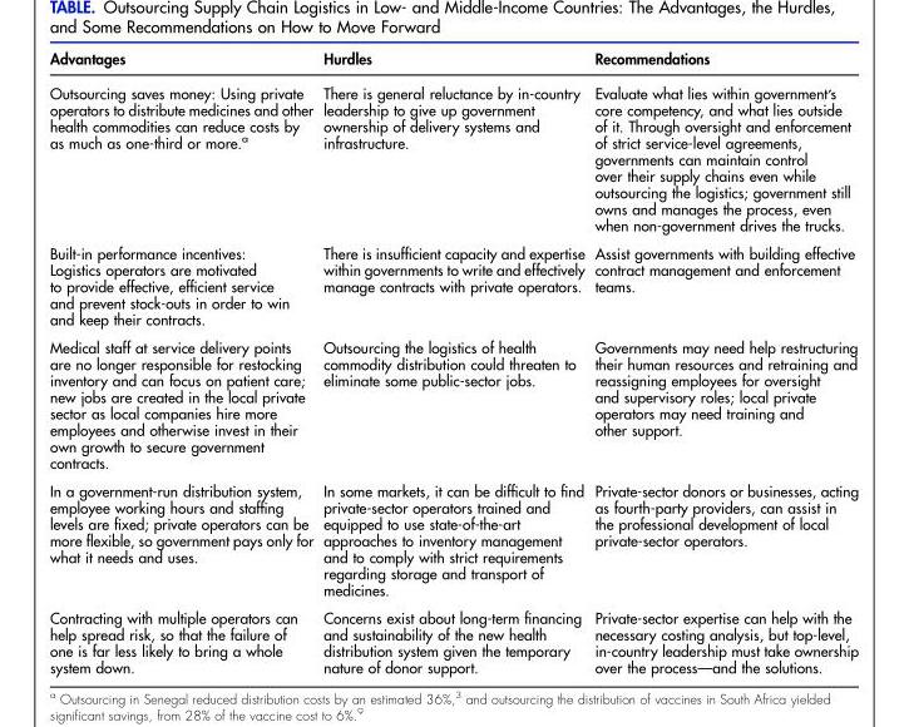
<table><thead><tr><td>Advantages</td><td>Hurdles</td><td>Recommendations</td></tr></thead><tbody><tr><td>Outsourcing saves money: Using private operators to distribute medicines and other health commodities can reduce costs by as much as one-third or more.<sup>a</sup></td><td>There is general reluctance by in-country leadership to give up government ownership of delivery systems and infrastructure.</td><td>Evaluate what lies within government’s core competency, and what lies outside of it. Through oversight and enforcement of strict service-level agreements, governments can maintain control over their supply chains even while outsourcing the logistics; government still owns and manages the process, even when non-government drives the trucks.</td></tr><tr><td>Built-in performance incentives: Logistics operators are motivated to provide effective, efficient service and prevent stock-outs in order to win and keep their contracts.</td><td>There is insufficient capacity and expertise within governments to write and effectively manage contracts with private operators.</td><td>Assist governments with building effective contract management and enforcement teams.</td></tr><tr><td>Medical staff at service delivery points are no longer responsible for restocking inventory and can focus on patient care; new jobs are created in the local private sector as local companies hire more employees and otherwise invest in their own growth to secure government contracts.</td><td>Outsourcing the logistics of health commodity distribution could threaten to eliminate some public-sector jobs.</td><td>Governments may need help restructuring their human resources and retraining and reassigning employees for oversight and supervisory roles; local private operators may need training and other support.</td></tr><tr><td>In a government-run distribution system, employee working hours and staffing levels are fixed; private operators can be more flexible, so government pays only for what it needs and uses.</td><td>In some markets, it can be difficult to find private-sector operators trained and equipped to use state-of-the-art approaches to inventory management and to comply with strict requirements regarding storage and transport of medicines.</td><td>Private-sector donors or businesses, acting as fourth-party providers, can assist in the professional development of local private-sector operators.</td></tr><tr><td>Contracting with multiple operators can help spread risk, so that the failure of one is far less likely to bring a whole system down.</td><td>Concerns exist about long-term financing and sustainability of the new health distribution system given the temporary nature of donor support.</td><td>Private-sector expertise can help with the necessary costing analysis, but top-level, in-country leadership must take ownership over the process—and the solutions.</td></tr></tbody></table>